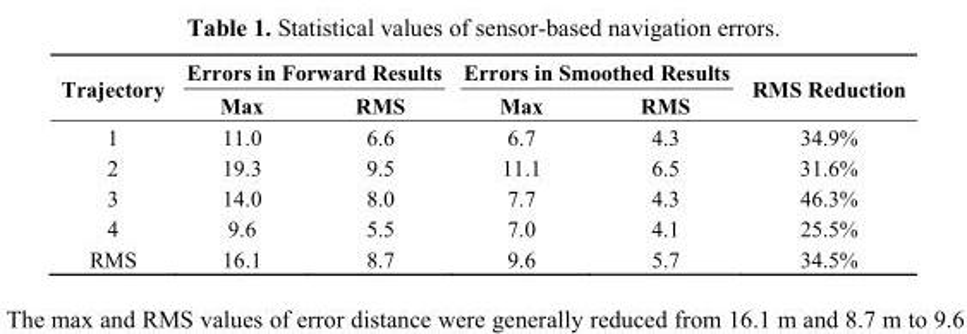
<table><thead><tr><td rowspan="2">Trajectory</td><td colspan="2">Errors in Forward Results</td><td colspan="2">Errors in Smoothed Results</td><td rowspan="2">RMS Reduction</td></tr><tr><td>Max</td><td>RMS</td><td>Max</td><td>RMS</td></tr></thead><tbody><tr><td>1</td><td>11.0</td><td>6.6</td><td>6.7</td><td>4.3</td><td>34.9%</td></tr><tr><td>2</td><td>19.3</td><td>9.5</td><td>11.1</td><td>6.5</td><td>31.6%</td></tr><tr><td>3</td><td>14.0</td><td>8.0</td><td>7.7</td><td>4.3</td><td>46.3%</td></tr><tr><td>4</td><td>9.6</td><td>5.5</td><td>7.0</td><td>4.1</td><td>25.5%</td></tr><tr><td>RMS</td><td>16.1</td><td>8.7</td><td>9.6</td><td>5.7</td><td>34.5%</td></tr></tbody></table>